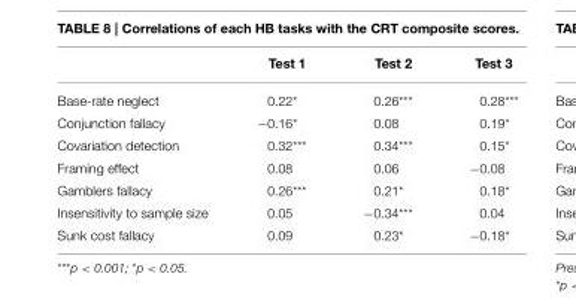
<table><thead><tr><td></td><td>Test 1</td><td>Test 2</td><td>Test 3</td></tr></thead><tbody><tr><td>Base-rate neglect</td><td>0.22*</td><td>0.26***</td><td>0.28***</td></tr><tr><td>Conjunction fallacy</td><td>−0.16*</td><td>0.08</td><td>0.19*</td></tr><tr><td>Covariation detection</td><td>0.32***</td><td>0.34***</td><td>0.15*</td></tr><tr><td>Framing effect</td><td>0.08</td><td>0.06</td><td>−0.08</td></tr><tr><td>Gamblers fallacy</td><td>0.26***</td><td>0.21*</td><td>0.18*</td></tr><tr><td>Insensitivity to sample size</td><td>0.05</td><td>−0.34***</td><td>0.04</td></tr><tr><td>Sunk cost fallacy</td><td>0.09</td><td>0.23*</td><td>−0.18*</td></tr></tbody></table>